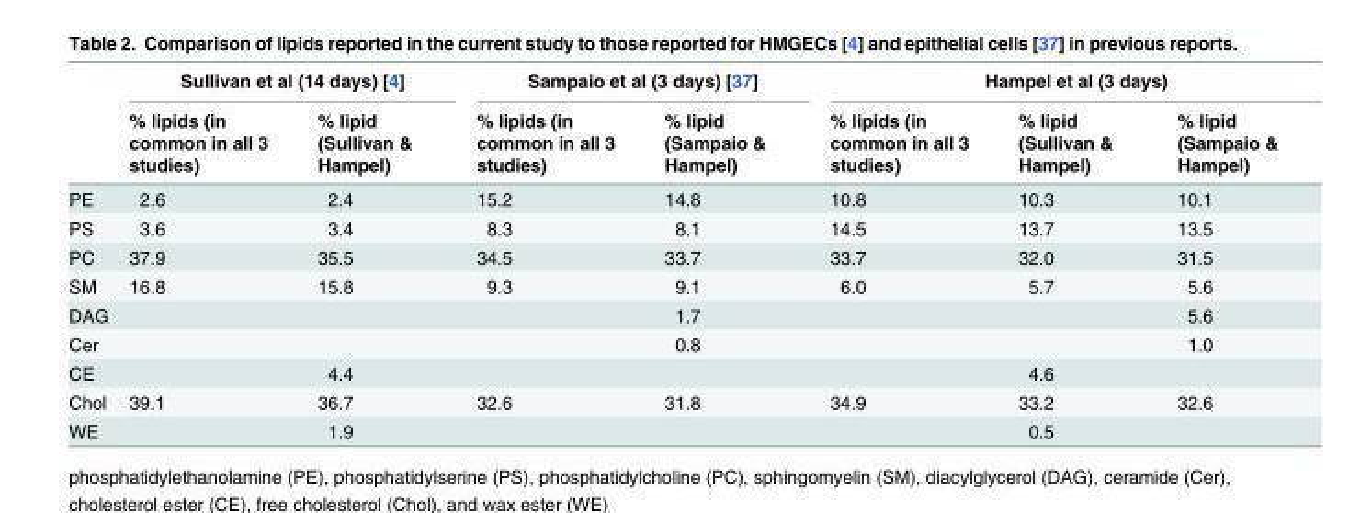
<table><thead><tr><td rowspan="2"></td><td colspan="2">Sullivan et al (14 days) [4]</td><td colspan="2">Sampaio et al (3 days) [37]</td><td colspan="3">Hampel et al (3 days)</td></tr><tr><td>% lipids (in common in all 3 studies)</td><td>% lipid (Sullivan &amp; Hampel)</td><td>% lipids (in common in all 3 studies)</td><td>% lipid (Sampaio &amp; Hampel)</td><td>% lipids (in common in all 3 studies)</td><td>% lipid (Sullivan &amp; Hampel)</td><td>% lipid (Sampaio &amp; Hampel)</td></tr></thead><tbody><tr><td>PE</td><td>2.6</td><td>2.4</td><td>15.2</td><td>14.8</td><td>10.8</td><td>10.3</td><td>10.1</td></tr><tr><td>PS</td><td>3.6</td><td>3.4</td><td>8.3</td><td>8.1</td><td>14.5</td><td>13.7</td><td>13.5</td></tr><tr><td>PC</td><td>37.9</td><td>35.5</td><td>34.5</td><td>33.7</td><td>33.7</td><td>32.0</td><td>31.5</td></tr><tr><td>SM</td><td>16.8</td><td>15.8</td><td>9.3</td><td>9.1</td><td>6.0</td><td>5.7</td><td>5.6</td></tr><tr><td>DAG</td><td></td><td></td><td></td><td>1.7</td><td></td><td></td><td>5.6</td></tr><tr><td>Cer</td><td></td><td></td><td></td><td>0.8</td><td></td><td></td><td>1.0</td></tr><tr><td>CE</td><td></td><td>4.4</td><td></td><td></td><td></td><td>4.6</td><td></td></tr><tr><td>Chol</td><td>39.1</td><td>36.7</td><td>32.6</td><td>31.8</td><td>34.9</td><td>33.2</td><td>32.6</td></tr><tr><td>WE</td><td></td><td>1.9</td><td></td><td></td><td></td><td>0.5</td><td></td></tr></tbody></table>